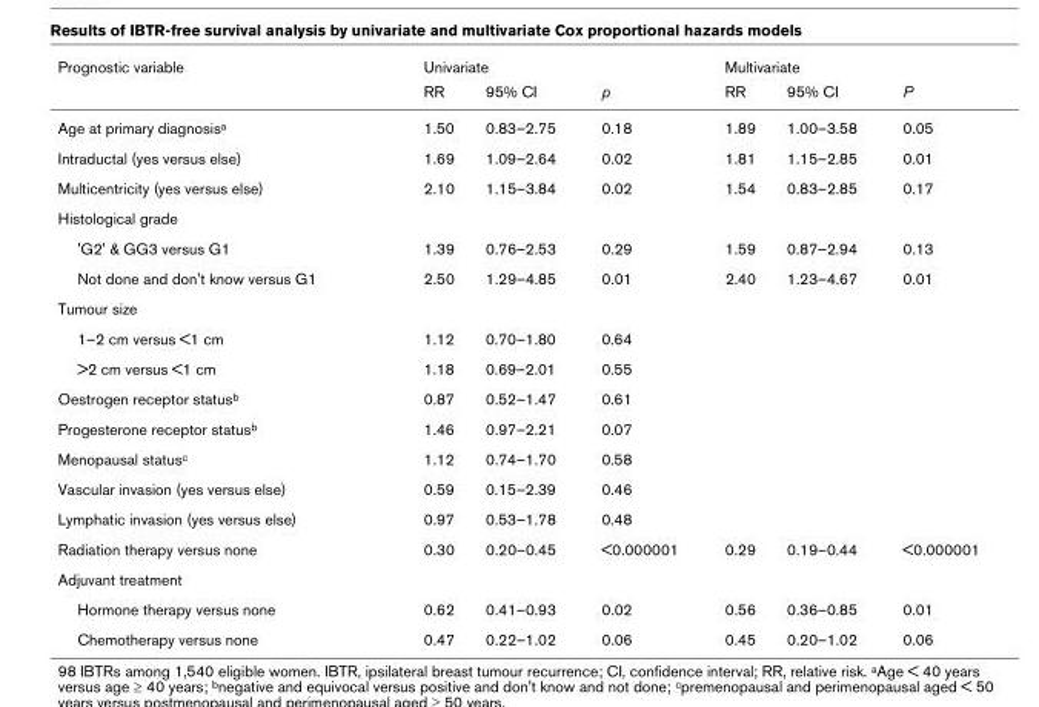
<table><thead><tr><td rowspan="2">Prognostic variable</td><td colspan="3">Univariate</td><td colspan="3">Multivariate</td></tr><tr><td>RR</td><td>95% CI</td><td>p</td><td>RR</td><td>95% CI</td><td>P</td></tr></thead><tbody><tr><td>Age at primary diagnosisa</td><td>1.50</td><td>0.83–2.75</td><td>0.18</td><td>1.89</td><td>1.00–3.58</td><td>0.05</td></tr><tr><td>Intraductal (yes versus else)</td><td>1.69</td><td>1.09–2.64</td><td>0.02</td><td>1.81</td><td>1.15–2.85</td><td>0.01</td></tr><tr><td>Multicentricity (yes versus else)</td><td>2.10</td><td>1.15–3.84</td><td>0.02</td><td>1.54</td><td>0.83–2.85</td><td>0.17</td></tr><tr><td colspan="7">Histological grade</td></tr><tr><td>&#x27;G2&#x27; &amp; GG3 versus G1</td><td>1.39</td><td>0.76–2.53</td><td>0.29</td><td>1.59</td><td>0.87–2.94</td><td>0.13</td></tr><tr><td>Not done and don&#x27;t know versus G1</td><td>2.50</td><td>1.29–4.85</td><td>0.01</td><td>2.40</td><td>1.23–4.67</td><td>0.01</td></tr><tr><td colspan="7">Tumour size</td></tr><tr><td>1–2 cm versus &lt;1 cm</td><td>1.12</td><td>0.70–1.80</td><td>0.64</td><td></td><td></td><td></td></tr><tr><td>&gt;2 cm versus &lt;1 cm</td><td>1.18</td><td>0.69–2.01</td><td>0.55</td><td></td><td></td><td></td></tr><tr><td>Oestrogen receptor statusb</td><td>0.87</td><td>0.52–1.47</td><td>0.61</td><td></td><td></td><td></td></tr><tr><td>Progesterone receptor statusb</td><td>1.46</td><td>0.97–2.21</td><td>0.07</td><td></td><td></td><td></td></tr><tr><td>Menopausal statusc</td><td>1.12</td><td>0.74–1.70</td><td>0.58</td><td></td><td></td><td></td></tr><tr><td>Vascular invasion (yes versus else)</td><td>0.59</td><td>0.15–2.39</td><td>0.46</td><td></td><td></td><td></td></tr><tr><td>Lymphatic invasion (yes versus else)</td><td>0.97</td><td>0.53–1.78</td><td>0.48</td><td></td><td></td><td></td></tr><tr><td>Radiation therapy versus none</td><td>0.30</td><td>0.20–0.45</td><td>&lt;0.000001</td><td>0.29</td><td>0.19–0.44</td><td>&lt;0.000001</td></tr><tr><td colspan="7">Adjuvant treatment</td></tr><tr><td>Hormone therapy versus none</td><td>0.62</td><td>0.41–0.93</td><td>0.02</td><td>0.56</td><td>0.36–0.85</td><td>0.01</td></tr><tr><td>Chemotherapy versus none</td><td>0.47</td><td>0.22–1.02</td><td>0.06</td><td>0.45</td><td>0.20–1.02</td><td>0.06</td></tr></tbody></table>